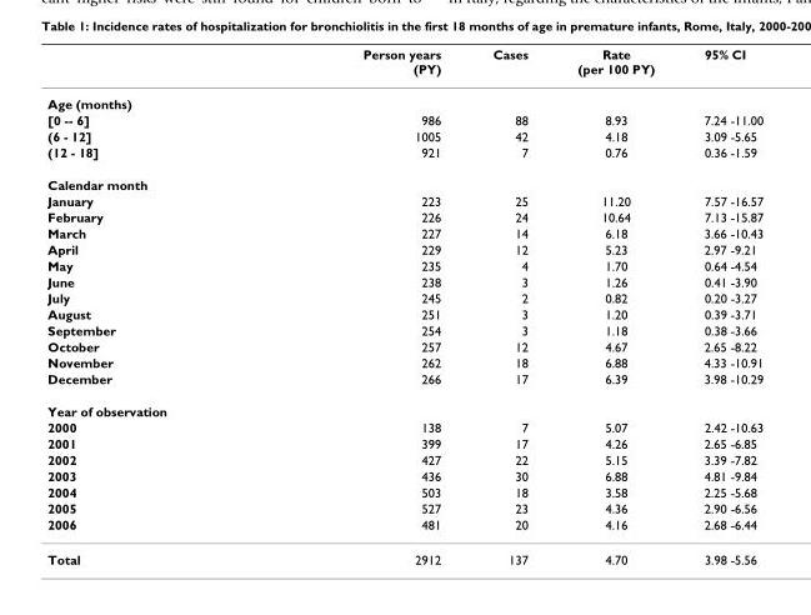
<table><thead><tr><td></td><td>Person years (PY)</td><td>Cases</td><td>Rate (per 100 PY)</td><td>95% CI</td></tr></thead><tbody><tr><td colspan="5">Age (months)</td></tr><tr><td>[0 -- 6]</td><td>986</td><td>88</td><td>8.93</td><td>7.24 -11.00</td></tr><tr><td>(6 - 12]</td><td>1005</td><td>42</td><td>4.18</td><td>3.09 -5.65</td></tr><tr><td>(12 - 18]</td><td>921</td><td>7</td><td>0.76</td><td>0.36 -1.59</td></tr><tr><td colspan="5">Calendar month</td></tr><tr><td>January</td><td>223</td><td>25</td><td>11.20</td><td>7.57 -16.57</td></tr><tr><td>February</td><td>226</td><td>24</td><td>10.64</td><td>7.13 -15.87</td></tr><tr><td>March</td><td>227</td><td>14</td><td>6.18</td><td>3.66 -10.43</td></tr><tr><td>April</td><td>229</td><td>12</td><td>5.23</td><td>2.97 -9.21</td></tr><tr><td>May</td><td>235</td><td>4</td><td>1.70</td><td>0.64 -4.54</td></tr><tr><td>June</td><td>238</td><td>3</td><td>1.26</td><td>0.41 -3.90</td></tr><tr><td>July</td><td>245</td><td>2</td><td>0.82</td><td>0.20 -3.27</td></tr><tr><td>August</td><td>251</td><td>3</td><td>1.20</td><td>0.39 -3.71</td></tr><tr><td>September</td><td>254</td><td>3</td><td>1.18</td><td>0.38 -3.66</td></tr><tr><td>October</td><td>257</td><td>12</td><td>4.67</td><td>2.65 -8.22</td></tr><tr><td>November</td><td>262</td><td>18</td><td>6.88</td><td>4.33 -10.91</td></tr><tr><td>December</td><td>266</td><td>17</td><td>6.39</td><td>3.98 -10.29</td></tr><tr><td colspan="5">Year of observation</td></tr><tr><td>2000</td><td>138</td><td>7</td><td>5.07</td><td>2.42 -10.63</td></tr><tr><td>2001</td><td>399</td><td>17</td><td>4.26</td><td>2.65 -6.85</td></tr><tr><td>2002</td><td>427</td><td>22</td><td>5.15</td><td>3.39 -7.82</td></tr><tr><td>2003</td><td>436</td><td>30</td><td>6.88</td><td>4.81 -9.84</td></tr><tr><td>2004</td><td>503</td><td>18</td><td>3.58</td><td>2.25 -5.68</td></tr><tr><td>2005</td><td>527</td><td>23</td><td>4.36</td><td>2.90 -6.56</td></tr><tr><td>2006</td><td>481</td><td>20</td><td>4.16</td><td>2.68 -6.44</td></tr><tr><td>Total</td><td>2912</td><td>137</td><td>4.70</td><td>3.98 -5.56</td></tr></tbody></table>